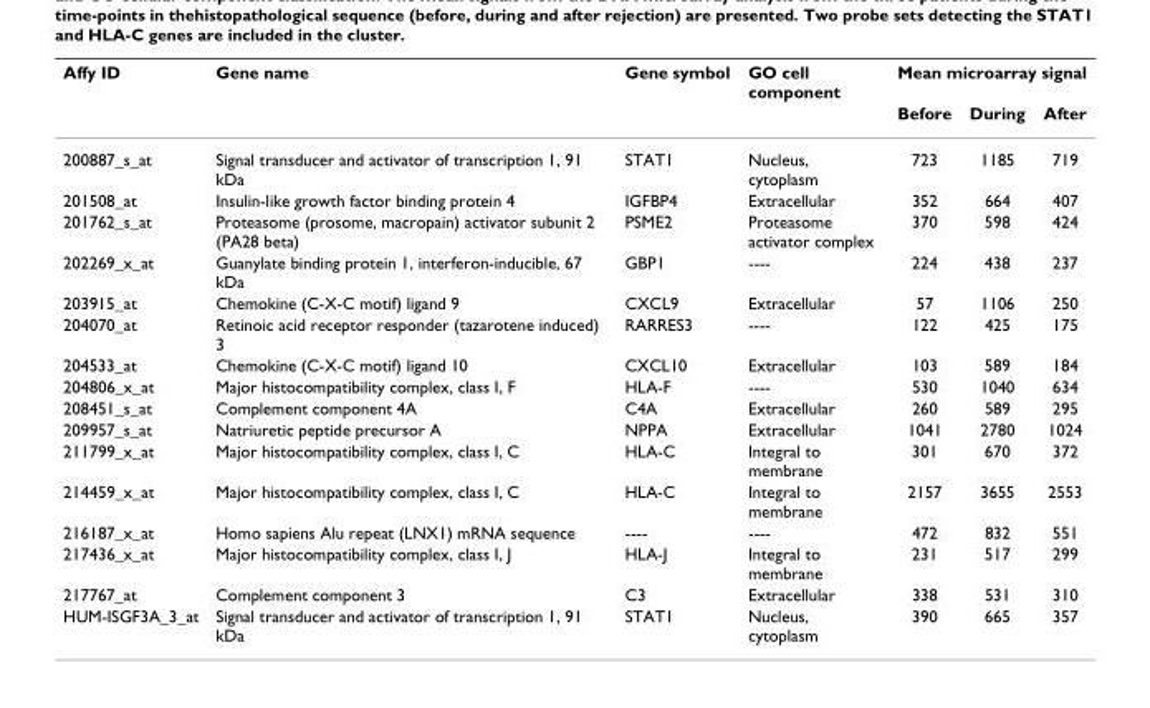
<table><thead><tr><td rowspan="2">Affy ID</td><td rowspan="2">Gene name</td><td rowspan="2">Gene symbol</td><td rowspan="2">GO cell component</td><td colspan="3">Mean microarray signal</td></tr><tr><td>Before</td><td>During</td><td>After</td></tr></thead><tbody><tr><td>200887_s_at</td><td>Signal transducer and activator of transcription 1, 91 kDa</td><td>STAT1</td><td>Nucleus, cytoplasm</td><td>723</td><td>1185</td><td>719</td></tr><tr><td>201508_at</td><td>Insulin-like growth factor binding protein 4</td><td>IGFBP4</td><td>Extracellular</td><td>352</td><td>664</td><td>407</td></tr><tr><td>201762_s_at</td><td>Proteasome (prosome, macropain) activator subunit 2 (PA28 beta)</td><td>PSME2</td><td>Proteasome activator complex</td><td>370</td><td>598</td><td>424</td></tr><tr><td>202269_x_at</td><td>Guanylate binding protein 1, interferon-inducible, 67 kDa</td><td>GBP1</td><td>----</td><td>224</td><td>438</td><td>237</td></tr><tr><td>203915_at</td><td>Chemokine (C-X-C motif) ligand 9</td><td>CXCL9</td><td>Extracellular</td><td>57</td><td>1106</td><td>250</td></tr><tr><td>204070_at</td><td>Retinoic acid receptor responder (tazarotene induced) 3</td><td>RARRES3</td><td>----</td><td>122</td><td>425</td><td>175</td></tr><tr><td>204533_at</td><td>Chemokine (C-X-C motif) ligand 10</td><td>CXCL10</td><td>Extracellular</td><td>103</td><td>589</td><td>184</td></tr><tr><td>204806_x_at</td><td>Major histocompatibility complex, class I, F</td><td>HLA-F</td><td>----</td><td>530</td><td>1040</td><td>634</td></tr><tr><td>208451_s_at</td><td>Complement component 4A</td><td>C4A</td><td>Extracellular</td><td>260</td><td>589</td><td>295</td></tr><tr><td>209957_s_at</td><td>Natriuretic peptide precursor A</td><td>NPPA</td><td>Extracellular</td><td>1041</td><td>2780</td><td>1024</td></tr><tr><td>211799_x_at</td><td>Major histocompatibility complex, class I, C</td><td>HLA-C</td><td>Integral to membrane</td><td>301</td><td>670</td><td>372</td></tr><tr><td>214459_x_at</td><td>Major histocompatibility complex, class I, C</td><td>HLA-C</td><td>Integral to membrane</td><td>2157</td><td>3655</td><td>2553</td></tr><tr><td>216187_x_at</td><td>Homo sapiens Alu repeat (LNX1) mRNA sequence</td><td>----</td><td>----</td><td>472</td><td>832</td><td>551</td></tr><tr><td>217436_x_at</td><td>Major histocompatibility complex, class I, J</td><td>HLA-J</td><td>Integral to membrane</td><td>231</td><td>517</td><td>299</td></tr><tr><td>217767_at</td><td>Complement component 3</td><td>C3</td><td>Extracellular</td><td>338</td><td>531</td><td>310</td></tr><tr><td>HUM-ISGF3A_3_at</td><td>Signal transducer and activator of transcription 1, 91 kDa</td><td>STAT1</td><td>Nucleus, cytoplasm</td><td>390</td><td>665</td><td>357</td></tr></tbody></table>